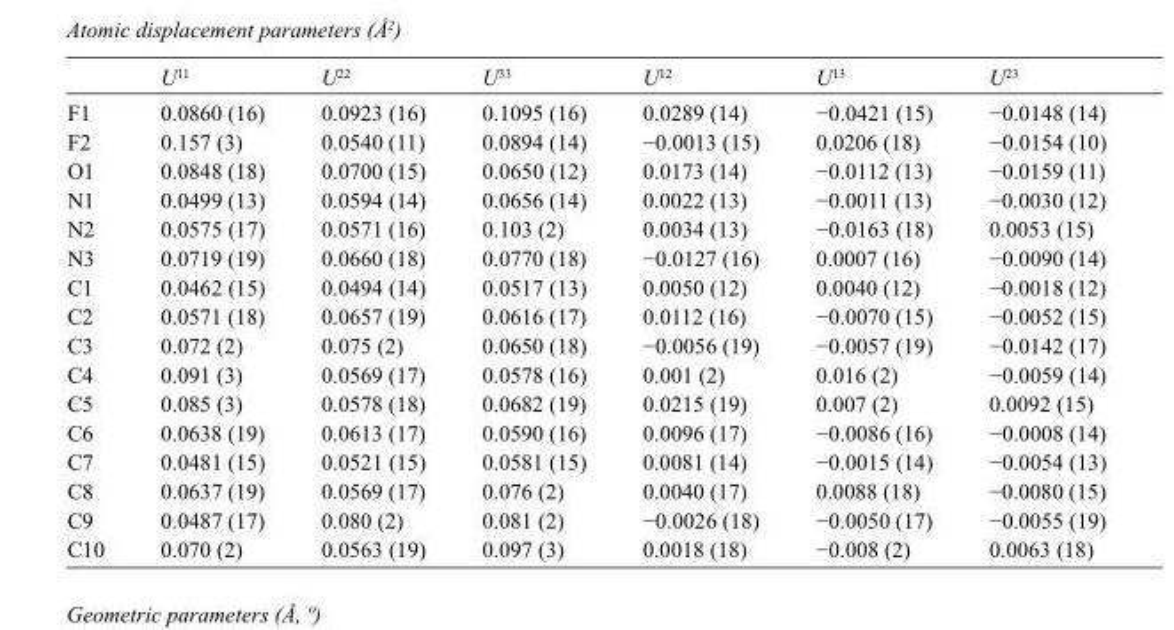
<table><thead><tr><td></td><td>U<sup>11</sup></td><td>U<sup>22</sup></td><td>U<sup>33</sup></td><td>U<sup>12</sup></td><td>U<sup>13</sup></td><td>U<sup>23</sup></td></tr></thead><tbody><tr><td>F1</td><td>0.0860 (16)</td><td>0.0923 (16)</td><td>0.1095 (16)</td><td>0.0289 (14)</td><td>−0.0421 (15)</td><td>−0.0148 (14)</td></tr><tr><td>F2</td><td>0.157 (3)</td><td>0.0540 (11)</td><td>0.0894 (14)</td><td>−0.0013 (15)</td><td>0.0206 (18)</td><td>−0.0154 (10)</td></tr><tr><td>O1</td><td>0.0848 (18)</td><td>0.0700 (15)</td><td>0.0650 (12)</td><td>0.0173 (14)</td><td>−0.0112 (13)</td><td>−0.0159 (11)</td></tr><tr><td>N1</td><td>0.0499 (13)</td><td>0.0594 (14)</td><td>0.0656 (14)</td><td>0.0022 (13)</td><td>−0.0011 (13)</td><td>−0.0030 (12)</td></tr><tr><td>N2</td><td>0.0575 (17)</td><td>0.0571 (16)</td><td>0.103 (2)</td><td>0.0034 (13)</td><td>−0.0163 (18)</td><td>0.0053 (15)</td></tr><tr><td>N3</td><td>0.0719 (19)</td><td>0.0660 (18)</td><td>0.0770 (18)</td><td>−0.0127 (16)</td><td>0.0007 (16)</td><td>−0.0090 (14)</td></tr><tr><td>C1</td><td>0.0462 (15)</td><td>0.0494 (14)</td><td>0.0517 (13)</td><td>0.0050 (12)</td><td>0.0040 (12)</td><td>−0.0018 (12)</td></tr><tr><td>C2</td><td>0.0571 (18)</td><td>0.0657 (19)</td><td>0.0616 (17)</td><td>0.0112 (16)</td><td>−0.0070 (15)</td><td>−0.0052 (15)</td></tr><tr><td>C3</td><td>0.072 (2)</td><td>0.075 (2)</td><td>0.0650 (18)</td><td>−0.0056 (19)</td><td>−0.0057 (19)</td><td>−0.0142 (17)</td></tr><tr><td>C4</td><td>0.091 (3)</td><td>0.0569 (17)</td><td>0.0578 (16)</td><td>0.001 (2)</td><td>0.016 (2)</td><td>−0.0059 (14)</td></tr><tr><td>C5</td><td>0.085 (3)</td><td>0.0578 (18)</td><td>0.0682 (19)</td><td>0.0215 (19)</td><td>0.007 (2)</td><td>0.0092 (15)</td></tr><tr><td>C6</td><td>0.0638 (19)</td><td>0.0613 (17)</td><td>0.0590 (16)</td><td>0.0096 (17)</td><td>−0.0086 (16)</td><td>−0.0008 (14)</td></tr><tr><td>C7</td><td>0.0481 (15)</td><td>0.0521 (15)</td><td>0.0581 (15)</td><td>0.0081 (14)</td><td>−0.0015 (14)</td><td>−0.0054 (13)</td></tr><tr><td>C8</td><td>0.0637 (19)</td><td>0.0569 (17)</td><td>0.076 (2)</td><td>0.0040 (17)</td><td>0.0088 (18)</td><td>−0.0080 (15)</td></tr><tr><td>C9</td><td>0.0487 (17)</td><td>0.080 (2)</td><td>0.081 (2)</td><td>−0.0026 (18)</td><td>−0.0050 (17)</td><td>−0.0055 (19)</td></tr><tr><td>C10</td><td>0.070 (2)</td><td>0.0563 (19)</td><td>0.097 (3)</td><td>0.0018 (18)</td><td>−0.008 (2)</td><td>0.0063 (18)</td></tr></tbody></table>